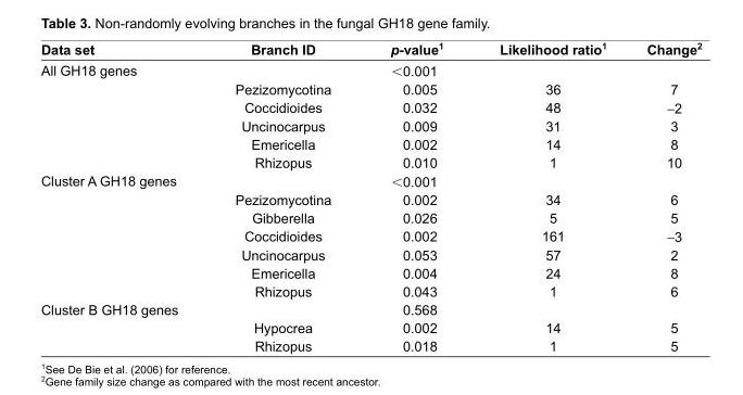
<table><thead><tr><td>Data set</td><td>Branch ID</td><td>p-value<sup>1</sup></td><td>Likelihood ratio<sup>1</sup></td><td>Change<sup>2</sup></td></tr></thead><tbody><tr><td rowspan="6">All GH18 genes</td><td></td><td>&lt;0.001</td><td></td><td></td></tr><tr><td>Pezizomycotina</td><td>0.005</td><td>36</td><td>7</td></tr><tr><td>Coccidioides</td><td>0.032</td><td>48</td><td>−2</td></tr><tr><td>Uncinocarpus</td><td>0.009</td><td>31</td><td>3</td></tr><tr><td>Emericella</td><td>0.002</td><td>14</td><td>8</td></tr><tr><td>Rhizopus</td><td>0.010</td><td>1</td><td>10</td></tr><tr><td rowspan="7">Cluster A GH18 genes</td><td></td><td>&lt;0.001</td><td></td><td></td></tr><tr><td>Pezizomycotina</td><td>0.002</td><td>34</td><td>6</td></tr><tr><td>Gibberella</td><td>0.026</td><td>5</td><td>5</td></tr><tr><td>Coccidioides</td><td>0.002</td><td>161</td><td>−3</td></tr><tr><td>Uncinocarpus</td><td>0.053</td><td>57</td><td>2</td></tr><tr><td>Emericella</td><td>0.004</td><td>24</td><td>8</td></tr><tr><td>Rhizopus</td><td>0.043</td><td>1</td><td>6</td></tr><tr><td rowspan="3">Cluster B GH18 genes</td><td></td><td>0.568</td><td></td><td></td></tr><tr><td>Hypocrea</td><td>0.002</td><td>14</td><td>5</td></tr><tr><td>Rhizopus</td><td>0.018</td><td>1</td><td>5</td></tr></tbody></table>